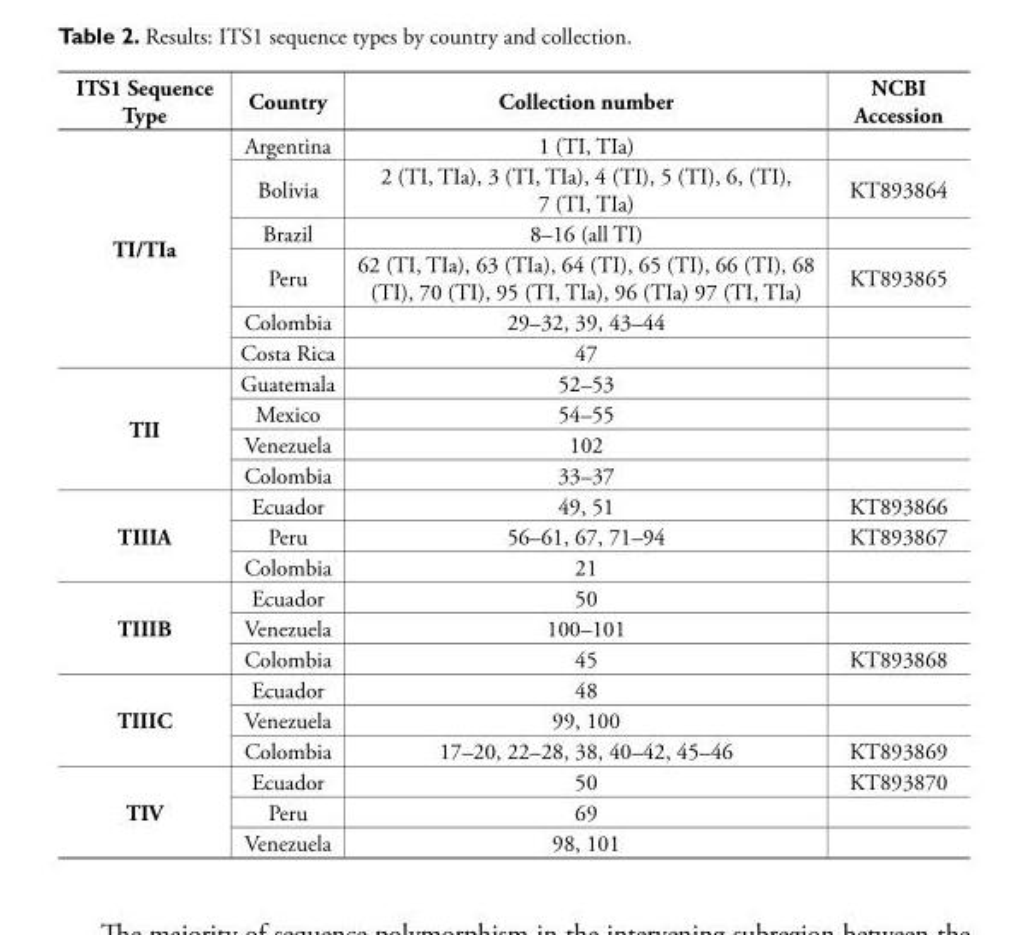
<table><thead><tr><td>ITS1 Sequence Type</td><td>Country</td><td>Collection number</td><td>NCBI Accession</td></tr></thead><tbody><tr><td rowspan="6">TI/TIa</td><td>Argentina</td><td>1 (TI, TIa)</td><td></td></tr><tr><td>Bolivia</td><td>2 (TI, TIa), 3 (TI, TIa), 4 (TI), 5 (TI), 6, (TI), 7 (TI, TIa)</td><td>KT893864</td></tr><tr><td>Brazil</td><td>8–16 (all TI)</td><td></td></tr><tr><td>Peru</td><td>62 (TI, TIa), 63 (TIa), 64 (TI), 65 (TI), 66 (TI), 68 (TI), 70 (TI), 95 (TI, TIa), 96 (TIa) 97 (TI, TIa)</td><td>KT893865</td></tr><tr><td>Colombia</td><td>29–32, 39, 43–44</td><td></td></tr><tr><td>Costa Rica</td><td>47</td><td></td></tr><tr><td rowspan="4">TII</td><td>Guatemala</td><td>52–53</td><td></td></tr><tr><td>Mexico</td><td>54–55</td><td></td></tr><tr><td>Venezuela</td><td>102</td><td></td></tr><tr><td>Colombia</td><td>33–37</td><td></td></tr><tr><td rowspan="3">TIIIA</td><td>Ecuador</td><td>49, 51</td><td>KT893866</td></tr><tr><td>Peru</td><td>56–61, 67, 71–94</td><td>KT893867</td></tr><tr><td>Colombia</td><td>21</td><td></td></tr><tr><td rowspan="3">TIIIB</td><td>Ecuador</td><td>50</td><td></td></tr><tr><td>Venezuela</td><td>100–101</td><td></td></tr><tr><td>Colombia</td><td>45</td><td>KT893868</td></tr><tr><td rowspan="3">TIIIC</td><td>Ecuador</td><td>48</td><td></td></tr><tr><td>Venezuela</td><td>99, 100</td><td></td></tr><tr><td>Colombia</td><td>17–20, 22–28, 38, 40–42, 45–46</td><td>KT893869</td></tr><tr><td rowspan="3">TIV</td><td>Ecuador</td><td>50</td><td>KT893870</td></tr><tr><td>Peru</td><td>69</td><td></td></tr><tr><td>Venezuela</td><td>98, 101</td><td></td></tr></tbody></table>